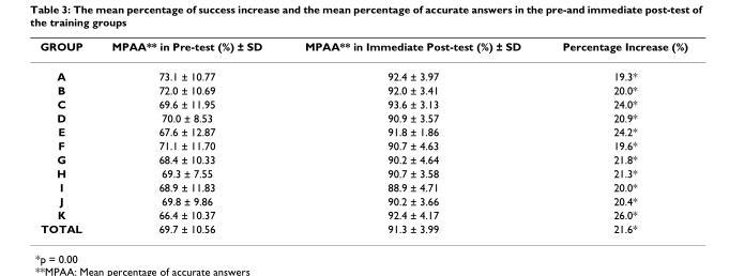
<table><thead><tr><td>GROUP</td><td>MPAA** in Pre-test (%) ± SD</td><td>MPAA** in Immediate Post-test (%) ± SD</td><td>Percentage Increase (%)</td></tr></thead><tbody><tr><td>A</td><td>73.1 ± 10.77</td><td>92.4 ± 3.97</td><td>19.3*</td></tr><tr><td>B</td><td>72.0 ± 10.69</td><td>92.0 ± 3.41</td><td>20.0*</td></tr><tr><td>C</td><td>69.6 ± 11.95</td><td>93.6 ± 3.13</td><td>24.0*</td></tr><tr><td>D</td><td>70.0 ± 8.53</td><td>90.9 ± 3.57</td><td>20.9*</td></tr><tr><td>E</td><td>67.6 ± 12.87</td><td>91.8 ± 1.86</td><td>24.2*</td></tr><tr><td>F</td><td>71.1 ± 11.70</td><td>90.7 ± 4.63</td><td>19.6*</td></tr><tr><td>G</td><td>68.4 ± 10.33</td><td>90.2 ± 4.64</td><td>21.8*</td></tr><tr><td>H</td><td>69.3 ± 7.55</td><td>90.7 ± 3.58</td><td>21.3*</td></tr><tr><td>I</td><td>68.9 ± 11.83</td><td>88.9 ± 4.71</td><td>20.0*</td></tr><tr><td>J</td><td>69.8 ± 9.86</td><td>90.2 ± 3.66</td><td>20.4*</td></tr><tr><td>K</td><td>66.4 ± 10.37</td><td>92.4 ± 4.17</td><td>26.0*</td></tr><tr><td>TOTAL</td><td>69.7 ± 10.56</td><td>91.3 ± 3.99</td><td>21.6*</td></tr></tbody></table>